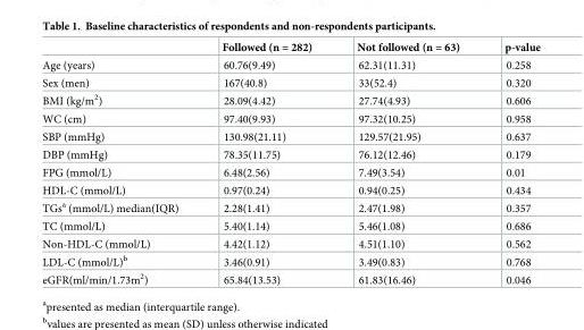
<table><thead><tr><td></td><td>Followed (n = 282)</td><td>Not followed (n = 63)</td><td>p-value</td></tr></thead><tbody><tr><td>Age (years)</td><td>60.76(9.49)</td><td>62.31(11.31)</td><td>0.258</td></tr><tr><td>Sex (men)</td><td>167(40.8)</td><td>33(52.4)</td><td>0.320</td></tr><tr><td>BMI (kg/m<sup>2</sup>)</td><td>28.09(4.42)</td><td>27.74(4.93)</td><td>0.606</td></tr><tr><td>WC (cm)</td><td>97.40(9.93)</td><td>97.32(10.25)</td><td>0.958</td></tr><tr><td>SBP (mmHg)</td><td>130.98(21.11)</td><td>129.57(21.95)</td><td>0.637</td></tr><tr><td>DBP (mmHg)</td><td>78.35(11.75)</td><td>76.12(12.46)</td><td>0.179</td></tr><tr><td>FPG (mmol/L)</td><td>6.48(2.56)</td><td>7.49(3.54)</td><td>0.01</td></tr><tr><td>HDL-C (mmol/L)</td><td>0.97(0.24)</td><td>0.94(0.25)</td><td>0.434</td></tr><tr><td>TGs<sup>a</sup> (mmol/L) median(IQR)</td><td>2.28(1.41)</td><td>2.47(1.98)</td><td>0.357</td></tr><tr><td>TC (mmol/L)</td><td>5.40(1.14)</td><td>5.46(1.08)</td><td>0.686</td></tr><tr><td>Non-HDL-C (mmol/L)</td><td>4.42(1.12)</td><td>4.51(1.10)</td><td>0.562</td></tr><tr><td>LDL-C (mmol/L)<sup>b</sup></td><td>3.46(0.91)</td><td>3.49(0.83)</td><td>0.768</td></tr><tr><td>eGFR(ml/min/1.73m<sup>2</sup>)</td><td>65.84(13.53)</td><td>61.83(16.46)</td><td>0.046</td></tr></tbody></table>